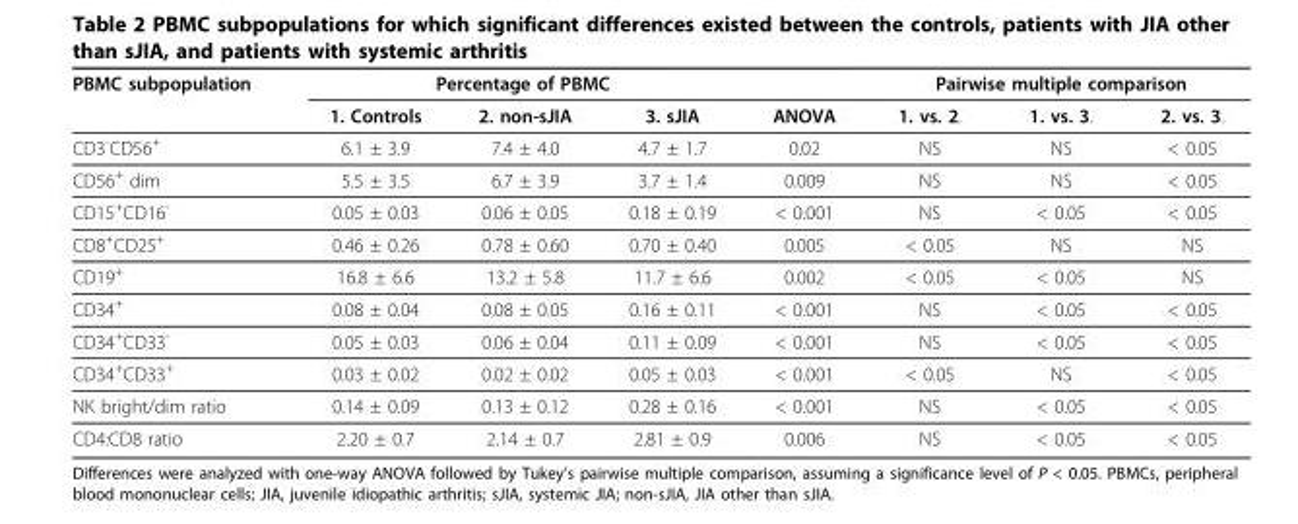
<table><thead><tr><td rowspan="2">PBMC subpopulation</td><td colspan="3">Percentage of PBMC</td><td rowspan="2">ANOVA</td><td colspan="3">Pairwise multiple comparison</td></tr><tr><td>1. Controls</td><td>2. non-sJIA</td><td>3. sJIA</td><td>1. vs. 2.</td><td>1. vs. 3.</td><td>2. vs. 3.</td></tr></thead><tbody><tr><td>CD3<sup>-</sup>CD56<sup>+</sup></td><td>6.1 ± 3.9</td><td>7.4 ± 4.0</td><td>4.7 ± 1.7</td><td>0.02</td><td>NS</td><td>NS</td><td>&lt; 0.05</td></tr><tr><td>CD56<sup>+</sup> dim</td><td>5.5 ± 3.5</td><td>6.7 ± 3.9</td><td>3.7 ± 1.4</td><td>0.009</td><td>NS</td><td>NS</td><td>&lt; 0.05</td></tr><tr><td>CD15<sup>+</sup>CD16<sup>-</sup></td><td>0.05 ± 0.03</td><td>0.06 ± 0.05</td><td>0.18 ± 0.19</td><td>&lt; 0.001</td><td>NS</td><td>&lt; 0.05</td><td>&lt; 0.05</td></tr><tr><td>CD8<sup>+</sup>CD25<sup>+</sup></td><td>0.46 ± 0.26</td><td>0.78 ± 0.60</td><td>0.70 ± 0.40</td><td>0.005</td><td>&lt; 0.05</td><td>NS</td><td>NS</td></tr><tr><td>CD19<sup>+</sup></td><td>16.8 ± 6.6</td><td>13.2 ± 5.8</td><td>11.7 ± 6.6</td><td>0.002</td><td>&lt; 0.05</td><td>&lt; 0.05</td><td>NS</td></tr><tr><td>CD34<sup>+</sup></td><td>0.08 ± 0.04</td><td>0.08 ± 0.05</td><td>0.16 ± 0.11</td><td>&lt; 0.001</td><td>NS</td><td>&lt; 0.05</td><td>&lt; 0.05</td></tr><tr><td>CD34<sup>+</sup>CD33<sup>-</sup></td><td>0.05 ± 0.03</td><td>0.06 ± 0.04</td><td>0.11 ± 0.09</td><td>&lt; 0.001</td><td>NS</td><td>&lt; 0.05</td><td>&lt; 0.05</td></tr><tr><td>CD34<sup>+</sup>CD33<sup>+</sup></td><td>0.03 ± 0.02</td><td>0.02 ± 0.02</td><td>0.05 ± 0.03</td><td>&lt; 0.001</td><td>&lt; 0.05</td><td>NS</td><td>&lt; 0.05</td></tr><tr><td>NK bright/dim ratio</td><td>0.14 ± 0.09</td><td>0.13 ± 0.12</td><td>0.28 ± 0.16</td><td>&lt; 0.001</td><td>NS</td><td>&lt; 0.05</td><td>&lt; 0.05</td></tr><tr><td>CD4:CD8 ratio</td><td>2.20 ± 0.7</td><td>2.14 ± 0.7</td><td>2.81 ± 0.9</td><td>0.006</td><td>NS</td><td>&lt; 0.05</td><td>&lt; 0.05</td></tr></tbody></table>